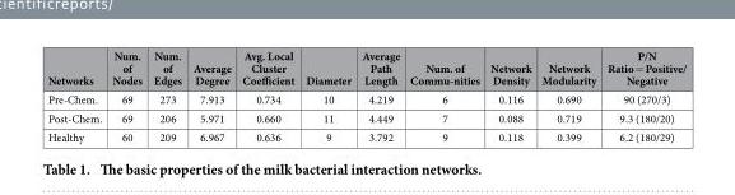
<table><thead><tr><td>Networks</td><td>Num. of Nodes</td><td>Num. of Edges</td><td>Average Degree</td><td>Avg. Local Cluster Coefficient</td><td>Diameter</td><td>Average Path Length</td><td>Num. of Commu-nities</td><td>Network Density</td><td>Network Modularity</td><td>P/N Ratio = Positive/ Negative</td></tr></thead><tbody><tr><td>Pre-Chem.</td><td>69</td><td>273</td><td>7.913</td><td>0.734</td><td>10</td><td>4.219</td><td>6</td><td>0.116</td><td>0.690</td><td>90 (270/3)</td></tr><tr><td>Post-Chem.</td><td>69</td><td>206</td><td>5.971</td><td>0.660</td><td>11</td><td>4.449</td><td>7</td><td>0.088</td><td>0.719</td><td>9.3 (180/20)</td></tr><tr><td>Healthy</td><td>60</td><td>209</td><td>6.967</td><td>0.636</td><td>9</td><td>3.792</td><td>9</td><td>0.118</td><td>0.399</td><td>6.2 (180/29)</td></tr></tbody></table>